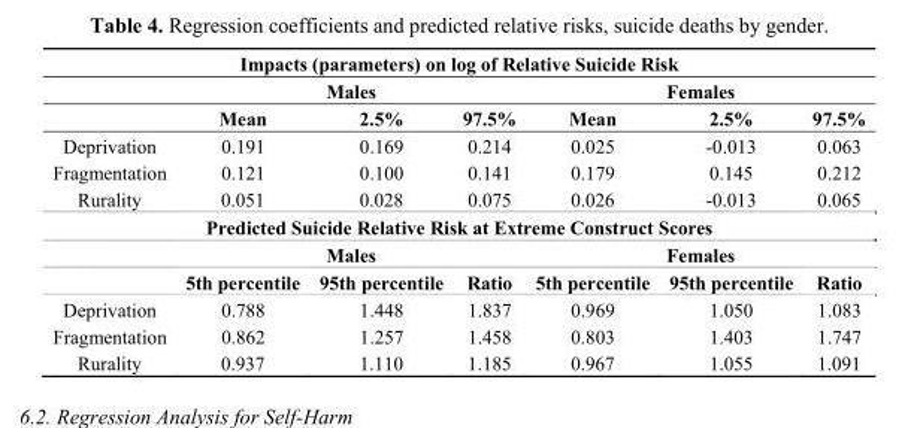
<table><thead><tr><td colspan="7">Impacts (parameters) on log of Relative Suicide Risk</td></tr><tr><td rowspan="2"></td><td colspan="3">Males</td><td colspan="3">Females</td></tr><tr><td>Mean</td><td>2.5%</td><td>97.5%</td><td>Mean</td><td>2.5%</td><td>97.5%</td></tr></thead><tbody><tr><td>Deprivation</td><td>0.191</td><td>0.169</td><td>0.214</td><td>0.025</td><td>-0.013</td><td>0.063</td></tr><tr><td>Fragmentation</td><td>0.121</td><td>0.100</td><td>0.141</td><td>0.179</td><td>0.145</td><td>0.212</td></tr><tr><td>Rurality</td><td>0.051</td><td>0.028</td><td>0.075</td><td>0.026</td><td>-0.013</td><td>0.065</td></tr><tr><td colspan="7">Predicted Suicide Relative Risk at Extreme Construct Scores</td></tr><tr><td></td><td colspan="3">Males</td><td colspan="3">Females</td></tr><tr><td></td><td>5th percentile</td><td>95th percentile</td><td>Ratio</td><td>5th percentile</td><td>95th percentile</td><td>Ratio</td></tr><tr><td>Deprivation</td><td>0.788</td><td>1.448</td><td>1.837</td><td>0.969</td><td>1.050</td><td>1.083</td></tr><tr><td>Fragmentation</td><td>0.862</td><td>1.257</td><td>1.458</td><td>0.803</td><td>1.403</td><td>1.747</td></tr><tr><td>Rurality</td><td>0.937</td><td>1.110</td><td>1.185</td><td>0.967</td><td>1.055</td><td>1.091</td></tr></tbody></table>